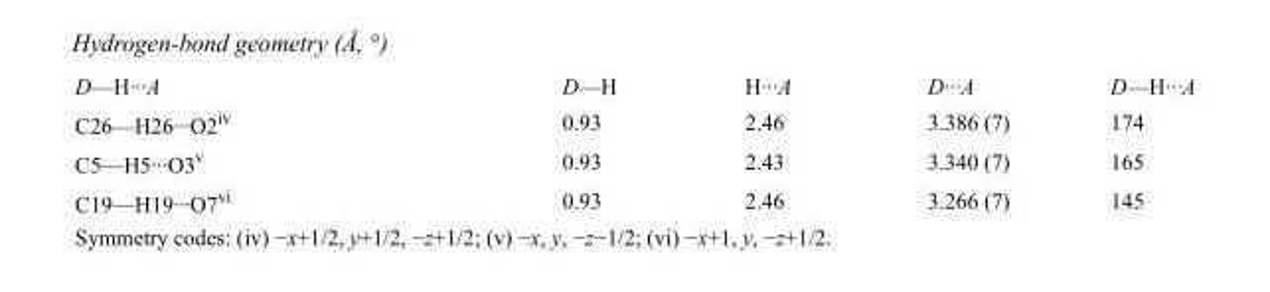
<table><tbody><tr><td>D—H···A</td><td>D—H</td><td>H···A</td><td>D···A</td><td>D—H···A</td></tr><tr><td>C26—H26···O2<sup>iv</sup></td><td>0.93</td><td>2.46</td><td>3.386 (7)</td><td>174</td></tr><tr><td>C5—H5···O3<sup>v</sup></td><td>0.93</td><td>2.43</td><td>3.340 (7)</td><td>165</td></tr><tr><td>C19—H19···O7<sup>vi</sup></td><td>0.93</td><td>2.46</td><td>3.266 (7)</td><td>145</td></tr></tbody></table>